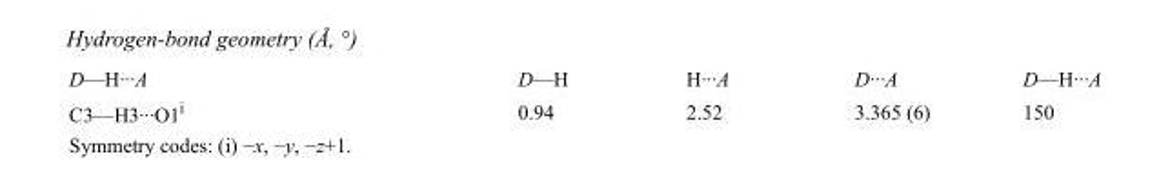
<table><tbody><tr><td>D—H···A</td><td>D—H</td><td>H···A</td><td>D···A</td><td>D—H···A</td></tr><tr><td>C3—H3···O1<sup>i</sup></td><td>0.94</td><td>2.52</td><td>3.365 (6)</td><td>150</td></tr></tbody></table>